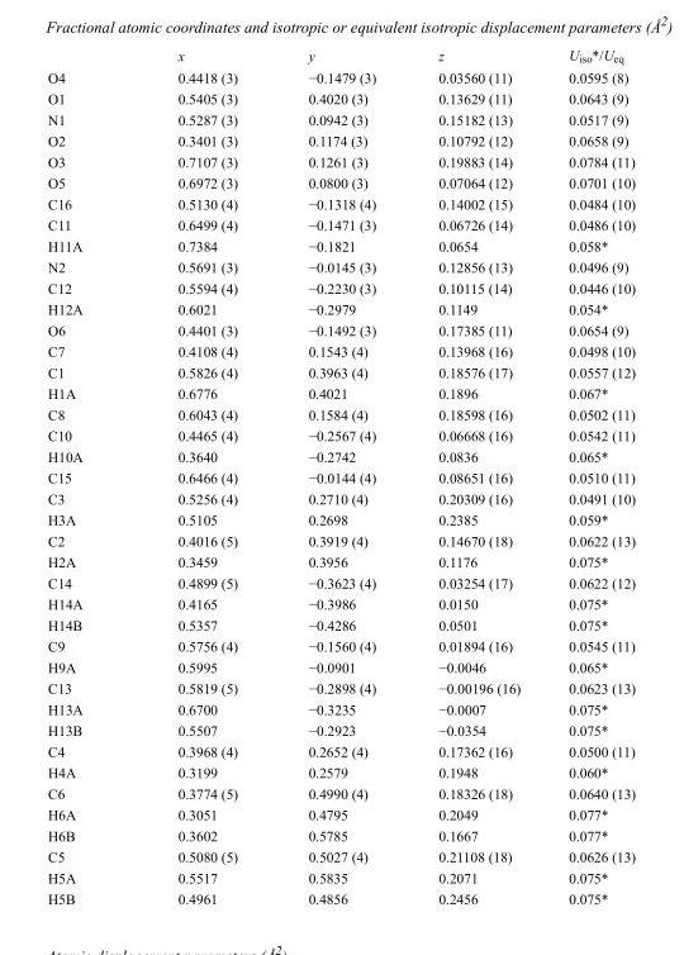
<table><thead><tr><td></td><td>x</td><td>y</td><td>z</td><td>U<sub>iso</sub>*/U<sub>eq</sub></td></tr></thead><tbody><tr><td>O4</td><td>0.4418 (3)</td><td>−0.1479 (3)</td><td>0.03560 (11)</td><td>0.0595 (8)</td></tr><tr><td>O1</td><td>0.5405 (3)</td><td>0.4020 (3)</td><td>0.13629 (11)</td><td>0.0643 (9)</td></tr><tr><td>N1</td><td>0.5287 (3)</td><td>0.0942 (3)</td><td>0.15182 (13)</td><td>0.0517 (9)</td></tr><tr><td>O2</td><td>0.3401 (3)</td><td>0.1174 (3)</td><td>0.10792 (12)</td><td>0.0658 (9)</td></tr><tr><td>O3</td><td>0.7107 (3)</td><td>0.1261 (3)</td><td>0.19883 (14)</td><td>0.0784 (11)</td></tr><tr><td>O5</td><td>0.6972 (3)</td><td>0.0800 (3)</td><td>0.07064 (12)</td><td>0.0701 (10)</td></tr><tr><td>C16</td><td>0.5130 (4)</td><td>−0.1318 (4)</td><td>0.14002 (15)</td><td>0.0484 (10)</td></tr><tr><td>C11</td><td>0.6499 (4)</td><td>−0.1471 (3)</td><td>0.06726 (14)</td><td>0.0486 (10)</td></tr><tr><td>H11A</td><td>0.7384</td><td>−0.1821</td><td>0.0654</td><td>0.058*</td></tr><tr><td>N2</td><td>0.5691 (3)</td><td>−0.0145 (3)</td><td>0.12856 (13)</td><td>0.0496 (9)</td></tr><tr><td>C12</td><td>0.5594 (4)</td><td>−0.2230 (3)</td><td>0.10115 (14)</td><td>0.0446 (10)</td></tr><tr><td>H12A</td><td>0.6021</td><td>−0.2979</td><td>0.1149</td><td>0.054*</td></tr><tr><td>O6</td><td>0.4401 (3)</td><td>−0.1492 (3)</td><td>0.17385 (11)</td><td>0.0654 (9)</td></tr><tr><td>C7</td><td>0.4108 (4)</td><td>0.1543 (4)</td><td>0.13968 (16)</td><td>0.0498 (10)</td></tr><tr><td>C1</td><td>0.5826 (4)</td><td>0.3963 (4)</td><td>0.18576 (17)</td><td>0.0557 (12)</td></tr><tr><td>H1A</td><td>0.6776</td><td>0.4021</td><td>0.1896</td><td>0.067*</td></tr><tr><td>C8</td><td>0.6043 (4)</td><td>0.1584 (4)</td><td>0.18598 (16)</td><td>0.0502 (11)</td></tr><tr><td>C10</td><td>0.4465 (4)</td><td>−0.2567 (4)</td><td>0.06668 (16)</td><td>0.0542 (11)</td></tr><tr><td>H10A</td><td>0.3640</td><td>−0.2742</td><td>0.0836</td><td>0.065*</td></tr><tr><td>C15</td><td>0.6466 (4)</td><td>−0.0144 (4)</td><td>0.08651 (16)</td><td>0.0510 (11)</td></tr><tr><td>C3</td><td>0.5256 (4)</td><td>0.2710 (4)</td><td>0.20309 (16)</td><td>0.0491 (10)</td></tr><tr><td>H3A</td><td>0.5105</td><td>0.2698</td><td>0.2385</td><td>0.059*</td></tr><tr><td>C2</td><td>0.4016 (5)</td><td>0.3919 (4)</td><td>0.14670 (18)</td><td>0.0622 (13)</td></tr><tr><td>H2A</td><td>0.3459</td><td>0.3956</td><td>0.1176</td><td>0.075*</td></tr><tr><td>C14</td><td>0.4899 (5)</td><td>−0.3623 (4)</td><td>0.03254 (17)</td><td>0.0622 (12)</td></tr><tr><td>H14A</td><td>0.4165</td><td>−0.3986</td><td>0.0150</td><td>0.075*</td></tr><tr><td>H14B</td><td>0.5357</td><td>−0.4286</td><td>0.0501</td><td>0.075*</td></tr><tr><td>C9</td><td>0.5756 (4)</td><td>−0.1560 (4)</td><td>0.01894 (16)</td><td>0.0545 (11)</td></tr><tr><td>H9A</td><td>0.5995</td><td>−0.0901</td><td>−0.0046</td><td>0.065*</td></tr><tr><td>C13</td><td>0.5819 (5)</td><td>−0.2898 (4)</td><td>−0.00196 (16)</td><td>0.0623 (13)</td></tr><tr><td>H13A</td><td>0.6700</td><td>−0.3235</td><td>−0.0007</td><td>0.075*</td></tr><tr><td>H13B</td><td>0.5507</td><td>−0.2923</td><td>−0.0354</td><td>0.075*</td></tr><tr><td>C4</td><td>0.3968 (4)</td><td>0.2652 (4)</td><td>0.17362 (16)</td><td>0.0500 (11)</td></tr><tr><td>H4A</td><td>0.3199</td><td>0.2579</td><td>0.1948</td><td>0.060*</td></tr><tr><td>C6</td><td>0.3774 (5)</td><td>0.4990 (4)</td><td>0.18326 (18)</td><td>0.0640 (13)</td></tr><tr><td>H6A</td><td>0.3051</td><td>0.4795</td><td>0.2049</td><td>0.077*</td></tr><tr><td>H6B</td><td>0.3602</td><td>0.5785</td><td>0.1667</td><td>0.077*</td></tr><tr><td>C5</td><td>0.5080 (5)</td><td>0.5027 (4)</td><td>0.21108 (18)</td><td>0.0626 (13)</td></tr><tr><td>H5A</td><td>0.5517</td><td>0.5835</td><td>0.2071</td><td>0.075*</td></tr><tr><td>H5B</td><td>0.4961</td><td>0.4856</td><td>0.2456</td><td>0.075*</td></tr></tbody></table>